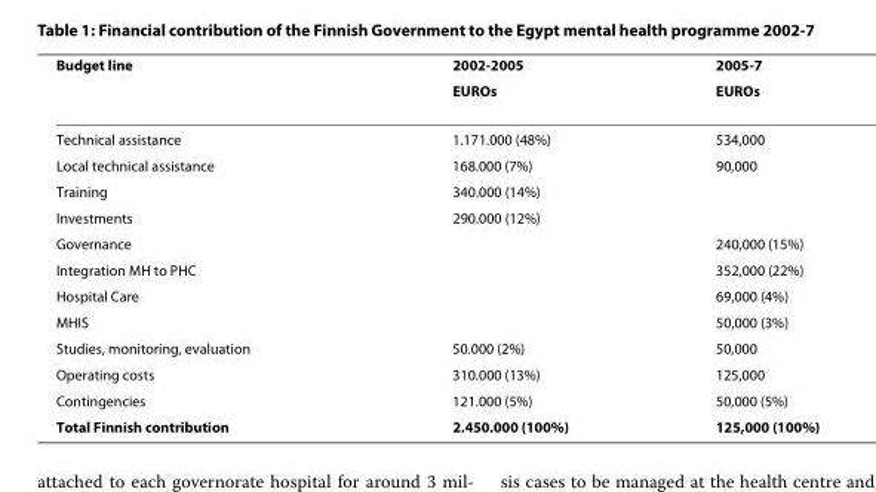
<table><thead><tr><td rowspan="2">Budget line</td><td rowspan="2">2002-2005 EUROs</td><td rowspan="2">2005-7 EUROs</td></tr><tr></tr></thead><tbody><tr><td>Technical assistance</td><td>1.171.000 (48%)</td><td>534,000</td></tr><tr><td>Local technical assistance</td><td>168.000 (7%)</td><td>90,000</td></tr><tr><td>Training</td><td>340.000 (14%)</td><td></td></tr><tr><td>Investments</td><td>290.000 (12%)</td><td></td></tr><tr><td>Governance</td><td></td><td>240,000 (15%)</td></tr><tr><td>Integration MH to PHC</td><td></td><td>352,000 (22%)</td></tr><tr><td>Hospital Care</td><td></td><td>69,000 (4%)</td></tr><tr><td>MHIS</td><td></td><td>50,000 (3%)</td></tr><tr><td>Studies, monitoring, evaluation</td><td>50.000 (2%)</td><td>50,000</td></tr><tr><td>Operating costs</td><td>310.000 (13%)</td><td>125,000</td></tr><tr><td>Contingencies</td><td>121.000 (5%)</td><td>50,000 (5%)</td></tr><tr><td>Total Finnish contribution</td><td>2.450.000 (100%)</td><td>125,000 (100%)</td></tr></tbody></table>